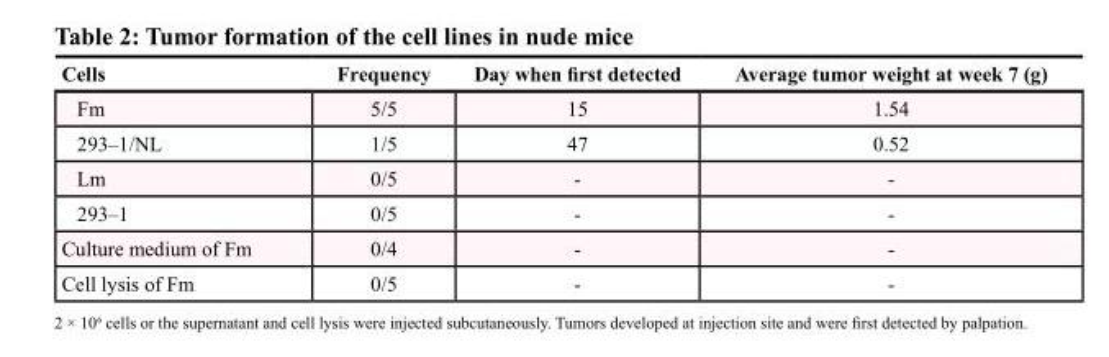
<table><thead><tr><td>Cells</td><td>Frequency</td><td>Day when first detected</td><td>Average tumor weight at week 7 (g)</td></tr></thead><tbody><tr><td>Fm</td><td>5/5</td><td>15</td><td>1.54</td></tr><tr><td>293–1/NL</td><td>1/5</td><td>47</td><td>0.52</td></tr><tr><td>Lm</td><td>0/5</td><td>-</td><td>-</td></tr><tr><td>293–1</td><td>0/5</td><td>-</td><td>-</td></tr><tr><td>Culture medium of Fm</td><td>0/4</td><td>-</td><td>-</td></tr><tr><td>Cell lysis of Fm</td><td>0/5</td><td>-</td><td>-</td></tr></tbody></table>